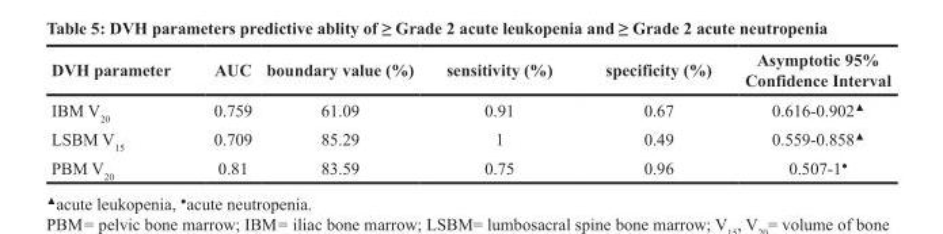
<table><thead><tr><td>DVH parameter</td><td>AUC</td><td>boundary value (%)</td><td>sensitivity (%)</td><td>specificity (%)</td><td>Asymptotic 95% Confidence Interval</td></tr></thead><tbody><tr><td>IBM V<sub>20</sub></td><td>0.759</td><td>61.09</td><td>0.91</td><td>0.67</td><td>0.616-0.902<sup>▲</sup></td></tr><tr><td>LSBM V<sub>15</sub></td><td>0.709</td><td>85.29</td><td>1</td><td>0.49</td><td>0.559-0.858<sup>▲</sup></td></tr><tr><td>PBM V<sub>20</sub></td><td>0.81</td><td>83.59</td><td>0.75</td><td>0.96</td><td>0.507-1<sup>●</sup></td></tr></tbody></table>